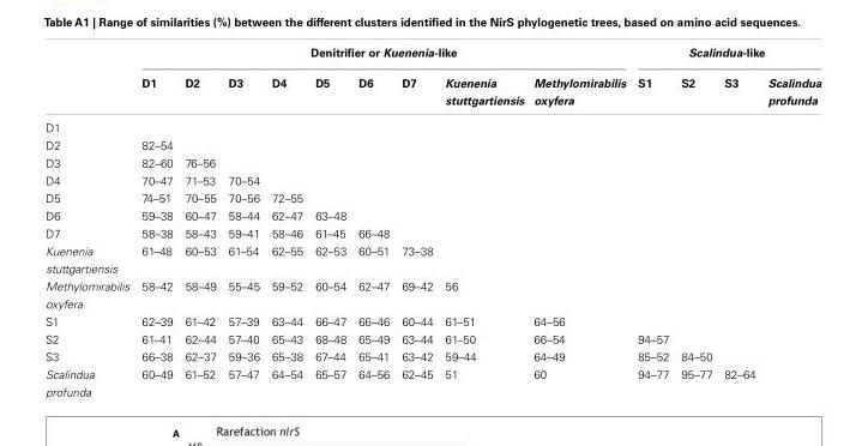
<table><thead><tr><td rowspan="2"></td><td colspan="9">Denitrifier or Kuenenia-like</td><td colspan="4">Scalindua-like</td></tr><tr><td>D1</td><td>D2</td><td>D3</td><td>D4</td><td>D5</td><td>D6</td><td>D7</td><td>Kuenenia stuttgartiensis</td><td>Methylomirabilis oxyfera</td><td>S1</td><td>S2</td><td>S3</td><td>Scalindua profunda</td></tr></thead><tbody><tr><td colspan="14">D1</td></tr><tr><td>D2</td><td>82–54</td><td></td><td></td><td></td><td></td><td></td><td></td><td></td><td></td><td></td><td></td><td></td><td></td></tr><tr><td>D3</td><td>82–60</td><td>76–56</td><td></td><td></td><td></td><td></td><td></td><td></td><td></td><td></td><td></td><td></td><td></td></tr><tr><td>D4</td><td>70–47</td><td>71–53</td><td>70–54</td><td></td><td></td><td></td><td></td><td></td><td></td><td></td><td></td><td></td><td></td></tr><tr><td>D5</td><td>74–51</td><td>70–55</td><td>70–56</td><td>72–55</td><td></td><td></td><td></td><td></td><td></td><td></td><td></td><td></td><td></td></tr><tr><td>D6</td><td>59–38</td><td>60–47</td><td>58–44</td><td>62–47</td><td>63–48</td><td></td><td></td><td></td><td></td><td></td><td></td><td></td><td></td></tr><tr><td>D7</td><td>58–38</td><td>58–43</td><td>59–41</td><td>58–46</td><td>61–45</td><td>66–48</td><td></td><td></td><td></td><td></td><td></td><td></td><td></td></tr><tr><td>Kuenenia stuttgartiensis</td><td>61–48</td><td>60–53</td><td>61–54</td><td>62–55</td><td>62–53</td><td>60–51</td><td>73–38</td><td></td><td></td><td></td><td></td><td></td><td></td></tr><tr><td>Methylomirabilis oxyfera</td><td>58–42</td><td>58–49</td><td>55–45</td><td>59–52</td><td>60–54</td><td>62–47</td><td>69–42</td><td>56</td><td></td><td></td><td></td><td></td><td></td></tr><tr><td>S1</td><td>62–39</td><td>61–42</td><td>57–39</td><td>63–44</td><td>66–47</td><td>66–46</td><td>60–44</td><td>61–51</td><td>64–56</td><td></td><td></td><td></td><td></td></tr><tr><td>S2</td><td>61–41</td><td>62–44</td><td>57–40</td><td>65–43</td><td>68–48</td><td>65–49</td><td>63–44</td><td>61–50</td><td>66–54</td><td>94–57</td><td></td><td></td><td></td></tr><tr><td>S3</td><td>66–38</td><td>62–37</td><td>59–36</td><td>65–38</td><td>67–44</td><td>65–41</td><td>63–42</td><td>59–44</td><td>64–49</td><td>85–52</td><td>84–50</td><td></td><td></td></tr><tr><td>Scalindua profunda</td><td>60–49</td><td>61–52</td><td>57–47</td><td>64–54</td><td>65–57</td><td>64–56</td><td>62–45</td><td>51</td><td>60</td><td>94–77</td><td>95–77</td><td>82–64</td><td></td></tr></tbody></table>